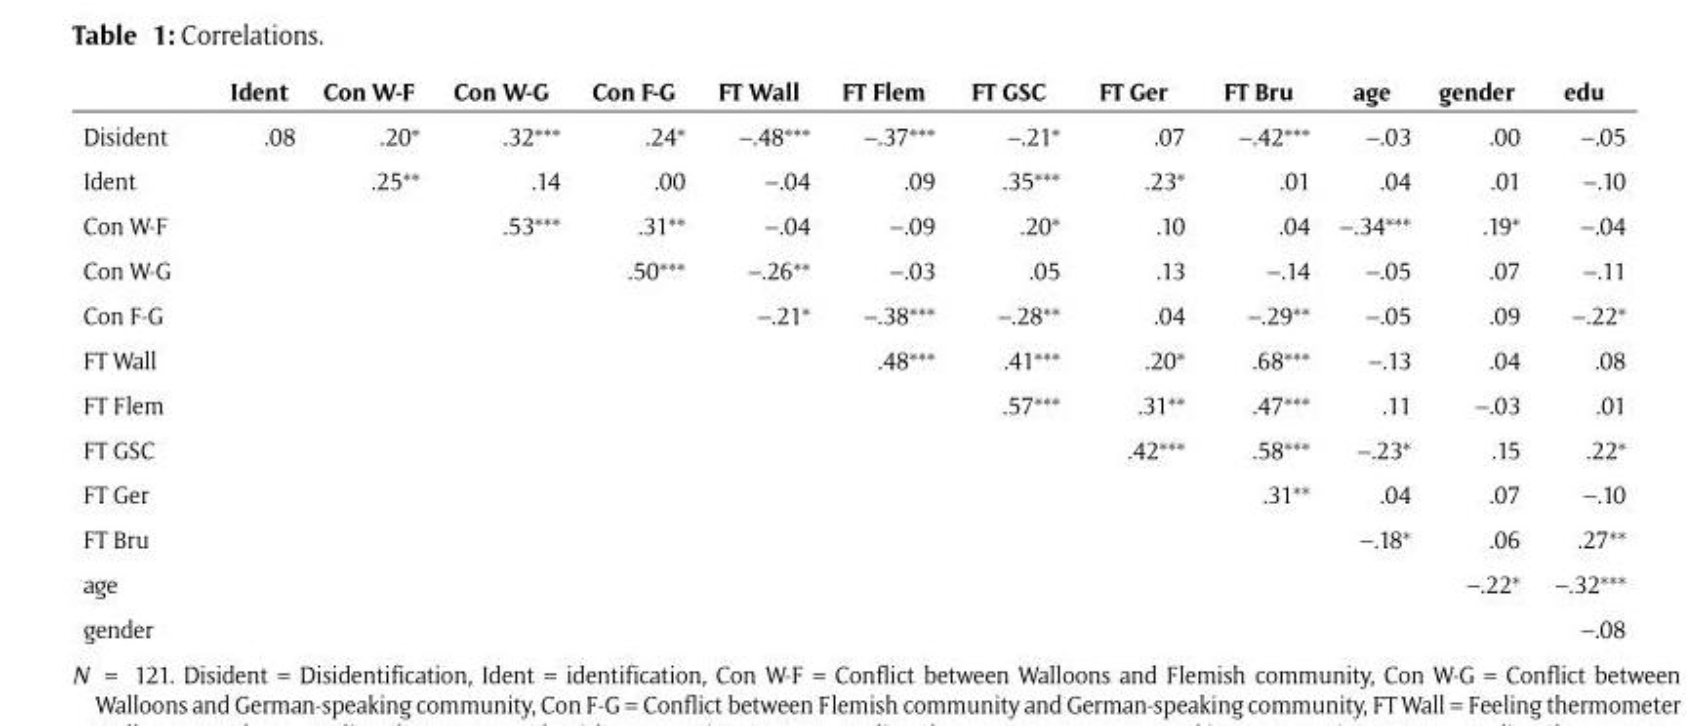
<table><thead><tr><td></td><td>Ident</td><td>Con W-F</td><td>Con W-G</td><td>Con F-G</td><td>FT Wall</td><td>FT Flem</td><td>FT GSC</td><td>FT Ger</td><td>FT Bru</td><td>age</td><td>gender</td><td>edu</td></tr></thead><tbody><tr><td>Disident</td><td>.08</td><td>.20*</td><td>.32***</td><td>.24*</td><td>–.48***</td><td>–.37***</td><td>–.21*</td><td>.07</td><td>–.42***</td><td>–.03</td><td>.00</td><td>–.05</td></tr><tr><td>Ident</td><td></td><td>.25**</td><td>.14</td><td>.00</td><td>–.04</td><td>.09</td><td>.35***</td><td>.23*</td><td>.01</td><td>.04</td><td>.01</td><td>–.10</td></tr><tr><td>Con W-F</td><td></td><td></td><td>.53***</td><td>.31**</td><td>–.04</td><td>–.09</td><td>.20*</td><td>.10</td><td>.04</td><td>–.34***</td><td>.19*</td><td>–.04</td></tr><tr><td>Con W-G</td><td></td><td></td><td></td><td>.50***</td><td>–.26**</td><td>–.03</td><td>.05</td><td>.13</td><td>–.14</td><td>–.05</td><td>.07</td><td>–.11</td></tr><tr><td>Con F-G</td><td></td><td></td><td></td><td></td><td>–.21*</td><td>–.38***</td><td>–.28**</td><td>.04</td><td>–.29**</td><td>–.05</td><td>.09</td><td>–.22*</td></tr><tr><td>FT Wall</td><td></td><td></td><td></td><td></td><td></td><td>.48***</td><td>.41***</td><td>.20*</td><td>.68***</td><td>–.13</td><td>.04</td><td>.08</td></tr><tr><td>FT Flem</td><td></td><td></td><td></td><td></td><td></td><td></td><td>.57***</td><td>.31**</td><td>.47***</td><td>.11</td><td>–.03</td><td>.01</td></tr><tr><td>FT GSC</td><td></td><td></td><td></td><td></td><td></td><td></td><td></td><td>.42***</td><td>.58***</td><td>–.23*</td><td>.15</td><td>.22*</td></tr><tr><td>FT Ger</td><td></td><td></td><td></td><td></td><td></td><td></td><td></td><td></td><td>.31**</td><td>.04</td><td>.07</td><td>–.10</td></tr><tr><td>FT Bru</td><td></td><td></td><td></td><td></td><td></td><td></td><td></td><td></td><td></td><td>–.18*</td><td>.06</td><td>.27**</td></tr><tr><td>age</td><td></td><td></td><td></td><td></td><td></td><td></td><td></td><td></td><td></td><td></td><td>–.22*</td><td>–.32***</td></tr><tr><td>gender</td><td></td><td></td><td></td><td></td><td></td><td></td><td></td><td></td><td></td><td></td><td></td><td>–.08</td></tr></tbody></table>